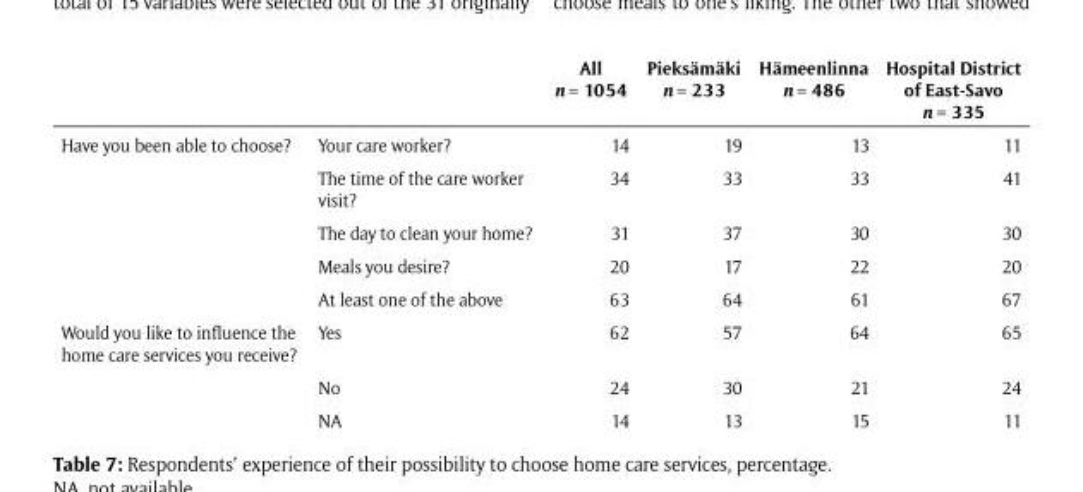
<table><thead><tr><td></td><td></td><td>All n = 1054</td><td>Pieksämäki n = 233</td><td>Hämeenlinna n = 486</td><td>Hospital District of East-Savo n = 335</td></tr></thead><tbody><tr><td rowspan="5">Have you been able to choose?</td><td>Your care worker?</td><td>14</td><td>19</td><td>13</td><td>11</td></tr><tr><td>The time of the care worker visit?</td><td>34</td><td>33</td><td>33</td><td>41</td></tr><tr><td>The day to clean your home?</td><td>31</td><td>37</td><td>30</td><td>30</td></tr><tr><td>Meals you desire?</td><td>20</td><td>17</td><td>22</td><td>20</td></tr><tr><td>At least one of the above</td><td>63</td><td>64</td><td>61</td><td>67</td></tr><tr><td rowspan="3">Would you like to influence the home care services you receive?</td><td>Yes</td><td>62</td><td>57</td><td>64</td><td>65</td></tr><tr><td>No</td><td>24</td><td>30</td><td>21</td><td>24</td></tr><tr><td>NA</td><td>14</td><td>13</td><td>15</td><td>11</td></tr></tbody></table>